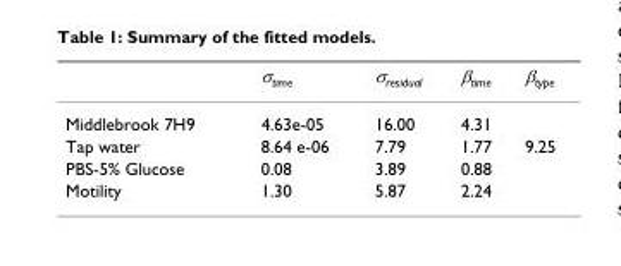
<table><thead><tr><td></td><td>σ<sub>time</sub></td><td>σ<sub>residual</sub></td><td>β<sub>time</sub></td><td>β<sub>type</sub></td></tr></thead><tbody><tr><td>Middlebrook 7H9</td><td>4.63e-05</td><td>16.00</td><td>4.31</td><td></td></tr><tr><td>Tap water</td><td>8.64 e-06</td><td>7.79</td><td>1.77</td><td>9.25</td></tr><tr><td>PBS-5% Glucose</td><td>0.08</td><td>3.89</td><td>0.88</td><td></td></tr><tr><td>Motility</td><td>1.30</td><td>5.87</td><td>2.24</td><td></td></tr></tbody></table>